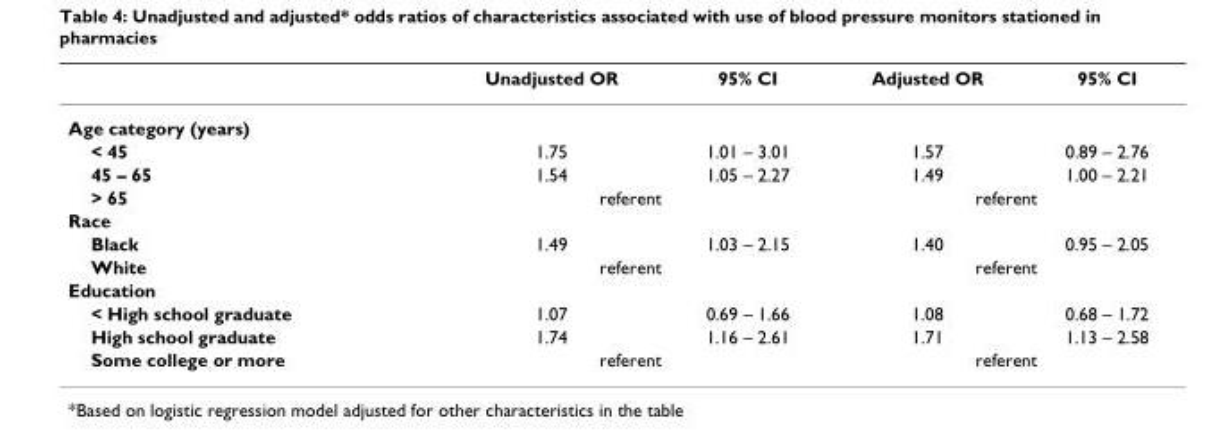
<table><thead><tr><td></td><td>Unadjusted OR</td><td>95% CI</td><td>Adjusted OR</td><td>95% CI</td></tr></thead><tbody><tr><td colspan="5">Age category (years)</td></tr><tr><td>&lt; 45</td><td>1.75</td><td>1.01 – 3.01</td><td>1.57</td><td>0.89 – 2.76</td></tr><tr><td>45 – 65</td><td>1.54</td><td>1.05 – 2.27</td><td>1.49</td><td>1.00 – 2.21</td></tr><tr><td>&gt; 65</td><td colspan="2">referent</td><td colspan="2">referent</td></tr><tr><td colspan="5">Race</td></tr><tr><td>Black</td><td>1.49</td><td>1.03 – 2.15</td><td>1.40</td><td>0.95 – 2.05</td></tr><tr><td>White</td><td colspan="2">referent</td><td colspan="2">referent</td></tr><tr><td colspan="5">Education</td></tr><tr><td>&lt; High school graduate</td><td>1.07</td><td>0.69 – 1.66</td><td>1.08</td><td>0.68 – 1.72</td></tr><tr><td>High school graduate</td><td>1.74</td><td>1.16 – 2.61</td><td>1.71</td><td>1.13 – 2.58</td></tr><tr><td>Some college or more</td><td colspan="2">referent</td><td colspan="2">referent</td></tr></tbody></table>